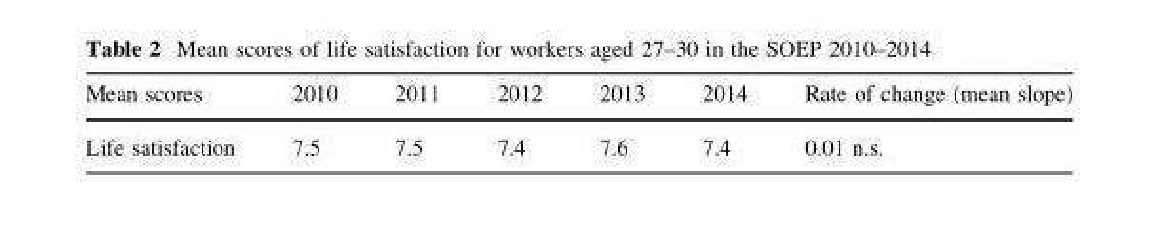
<table><thead><tr><td>Mean scores</td><td>2010</td><td>2011</td><td>2012</td><td>2013</td><td>2014</td><td>Rate of change (mean slope)</td></tr></thead><tbody><tr><td>Life satisfaction</td><td>7.5</td><td>7.5</td><td>7.4</td><td>7.6</td><td>7.4</td><td>0.01 n.s.</td></tr></tbody></table>